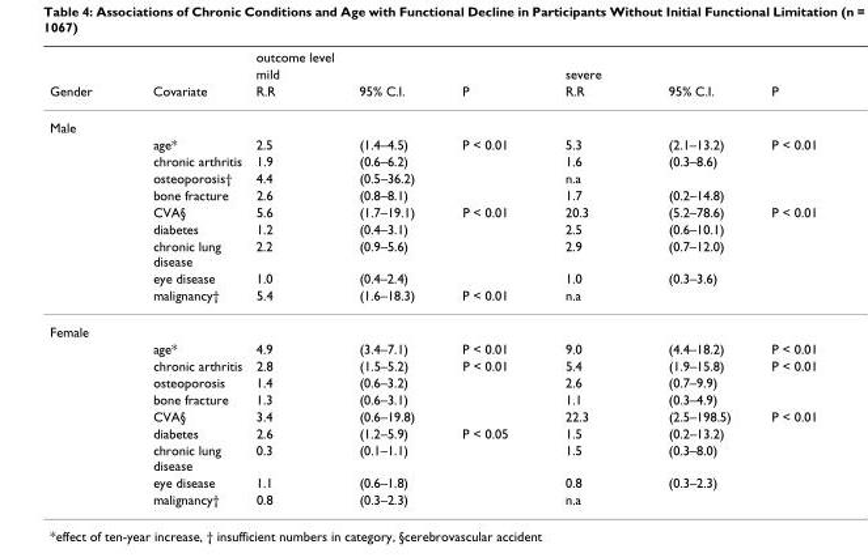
<table><thead><tr><td rowspan="3">Gender</td><td rowspan="3">Covariate</td><td colspan="6">outcome level</td></tr><tr><td rowspan="2">mild R.R</td><td rowspan="2">95% C.I.</td><td rowspan="2">P</td><td rowspan="2">severe R.R</td><td rowspan="2">95% C.I.</td><td rowspan="2">P</td></tr><tr></tr></thead><tbody><tr><td colspan="8">Male</td></tr><tr><td></td><td>age*</td><td>2.5</td><td>(1.4–4.5)</td><td>P &lt; 0.01</td><td>5.3</td><td>(2.1–13.2)</td><td>P &lt; 0.01</td></tr><tr><td></td><td>chronic arthritis</td><td>1.9</td><td>(0.6–6.2)</td><td></td><td>1.6</td><td>(0.3–8.6)</td><td></td></tr><tr><td></td><td>osteoporosis†</td><td>4.4</td><td>(0.5–36.2)</td><td></td><td>n.a</td><td></td><td></td></tr><tr><td></td><td>bone fracture</td><td>2.6</td><td>(0.8–8.1)</td><td></td><td>1.7</td><td>(0.2–14.8)</td><td></td></tr><tr><td></td><td>CVA§</td><td>5.6</td><td>(1.7–19.1)</td><td>P &lt; 0.01</td><td>20.3</td><td>(5.2–78.6)</td><td>P &lt; 0.01</td></tr><tr><td></td><td>diabetes</td><td>1.2</td><td>(0.4–3.1)</td><td></td><td>2.5</td><td>(0.6–10.1)</td><td></td></tr><tr><td></td><td>chronic lung disease</td><td>2.2</td><td>(0.9–5.6)</td><td></td><td>2.9</td><td>(0.7–12.0)</td><td></td></tr><tr><td></td><td>eye disease</td><td>1.0</td><td>(0.4–2.4)</td><td></td><td>1.0</td><td>(0.3–3.6)</td><td></td></tr><tr><td></td><td>malignancy†</td><td>5.4</td><td>(1.6–18.3)</td><td>P &lt; 0.01</td><td>n.a</td><td></td><td></td></tr><tr><td colspan="8">Female</td></tr><tr><td></td><td>age*</td><td>4.9</td><td>(3.4–7.1)</td><td>P &lt; 0.01</td><td>9.0</td><td>(4.4–18.2)</td><td>P &lt; 0.01</td></tr><tr><td></td><td>chronic arthritis</td><td>2.8</td><td>(1.5–5.2)</td><td>P &lt; 0.01</td><td>5.4</td><td>(1.9–15.8)</td><td>P &lt; 0.01</td></tr><tr><td></td><td>osteoporosis</td><td>1.4</td><td>(0.6–3.2)</td><td></td><td>2.6</td><td>(0.7–9.9)</td><td></td></tr><tr><td></td><td>bone fracture</td><td>1.3</td><td>(0.6–3.1)</td><td></td><td>1.1</td><td>(0.3–4.9)</td><td></td></tr><tr><td></td><td>CVA§</td><td>3.4</td><td>(0.6–19.8)</td><td></td><td>22.3</td><td>(2.5–198.5)</td><td>P &lt; 0.01</td></tr><tr><td></td><td>diabetes</td><td>2.6</td><td>(1.2–5.9)</td><td>P &lt; 0.05</td><td>1.5</td><td>(0.2–13.2)</td><td></td></tr><tr><td></td><td>chronic lung disease</td><td>0.3</td><td>(0.1–1.1)</td><td></td><td>1.5</td><td>(0.3–8.0)</td><td></td></tr><tr><td></td><td>eye disease</td><td>1.1</td><td>(0.6–1.8)</td><td></td><td>0.8</td><td>(0.3–2.3)</td><td></td></tr><tr><td></td><td>malignancy†</td><td>0.8</td><td>(0.3–2.3)</td><td></td><td>n.a</td><td></td><td></td></tr></tbody></table>